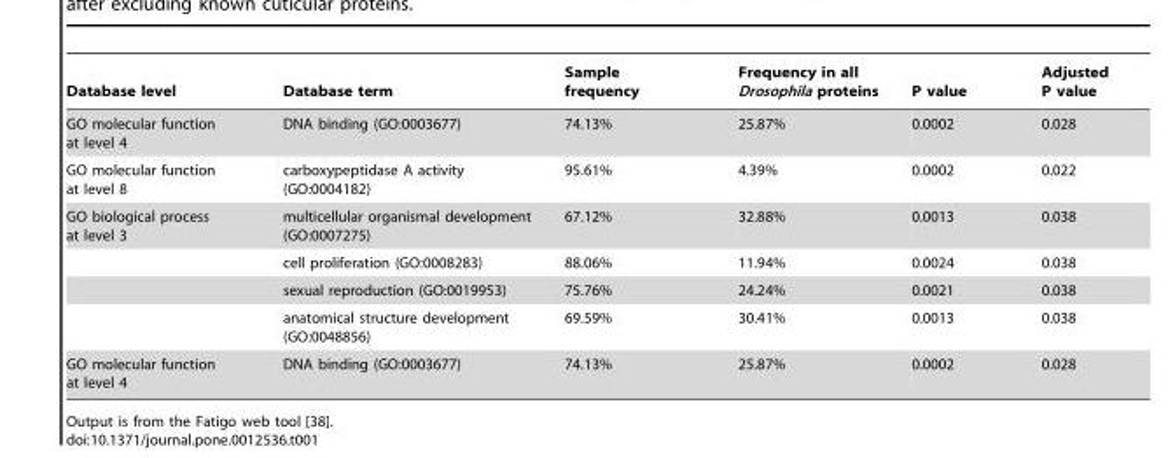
<table><thead><tr><td>Database level</td><td>Database term</td><td>Sample frequency</td><td>Frequency in all Drosophila proteins</td><td>P value</td><td>Adjusted P value</td></tr></thead><tbody><tr><td>GO molecular function at level 4</td><td>DNA binding (GO:0003677)</td><td>74.13%</td><td>25.87%</td><td>0.0002</td><td>0.028</td></tr><tr><td>GO molecular function at level 8</td><td>carboxypeptidase A activity (GO:0004182)</td><td>95.61%</td><td>4.39%</td><td>0.0002</td><td>0.022</td></tr><tr><td rowspan="4">GO biological process at level 3</td><td>multicellular organismal development (GO:0007275)</td><td>67.12%</td><td>32.88%</td><td>0.0013</td><td>0.038</td></tr><tr><td>cell proliferation (GO:0008283)</td><td>88.06%</td><td>11.94%</td><td>0.0024</td><td>0.038</td></tr><tr><td>sexual reproduction (GO:0019953)</td><td>75.76%</td><td>24.24%</td><td>0.0021</td><td>0.038</td></tr><tr><td>anatomical structure development (GO:0048856)</td><td>69.59%</td><td>30.41%</td><td>0.0013</td><td>0.038</td></tr><tr><td>GO molecular function at level 4</td><td>DNA binding (GO:0003677)</td><td>74.13%</td><td>25.87%</td><td>0.0002</td><td>0.028</td></tr></tbody></table>